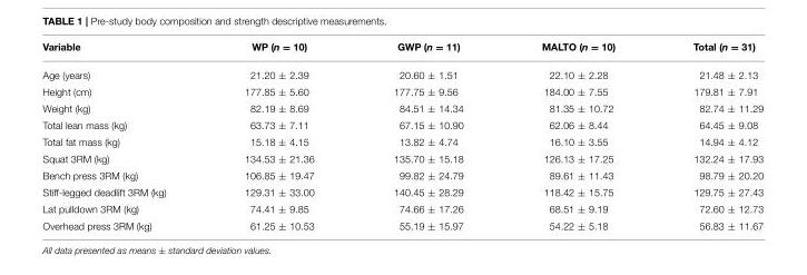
<table><thead><tr><td>Variable</td><td>WP (n = 10)</td><td>GWP (n = 11)</td><td>MALTO (n = 10)</td><td>Total (n = 31)</td></tr></thead><tbody><tr><td>Age (years)</td><td>21.20 ± 2.39</td><td>20.60 ± 1.51</td><td>22.10 ± 2.28</td><td>21.48 ± 2.13</td></tr><tr><td>Height (cm)</td><td>177.85 ± 5.60</td><td>177.75 ± 9.56</td><td>184.00 ± 7.55</td><td>179.81 ± 7.91</td></tr><tr><td>Weight (kg)</td><td>82.19 ± 8.69</td><td>84.51 ± 14.34</td><td>81.35 ± 10.72</td><td>82.74 ± 11.29</td></tr><tr><td>Total lean mass (kg)</td><td>63.73 ± 7.11</td><td>67.15 ± 10.90</td><td>62.06 ± 8.44</td><td>64.45 ± 9.08</td></tr><tr><td>Total fat mass (kg)</td><td>15.18 ± 4.15</td><td>13.82 ± 4.74</td><td>16.10 ± 3.55</td><td>14.94 ± 4.12</td></tr><tr><td>Squat 3RM (kg)</td><td>134.53 ± 21.36</td><td>135.70 ± 15.18</td><td>126.13 ± 17.25</td><td>132.24 ± 17.93</td></tr><tr><td>Bench press 3RM (kg)</td><td>106.85 ± 19.47</td><td>99.82 ± 24.79</td><td>89.61 ± 11.43</td><td>98.79 ± 20.20</td></tr><tr><td>Stiff-legged deadlift 3RM (kg)</td><td>129.31 ± 33.00</td><td>140.45 ± 28.29</td><td>118.42 ± 15.75</td><td>129.75 ± 27.43</td></tr><tr><td>Lat pulldown 3RM (kg)</td><td>74.41 ± 9.85</td><td>74.66 ± 17.26</td><td>68.51 ± 9.19</td><td>72.60 ± 12.73</td></tr><tr><td>Overhead press 3RM (kg)</td><td>61.25 ± 10.53</td><td>55.19 ± 15.97</td><td>54.22 ± 5.18</td><td>56.83 ± 11.67</td></tr></tbody></table>